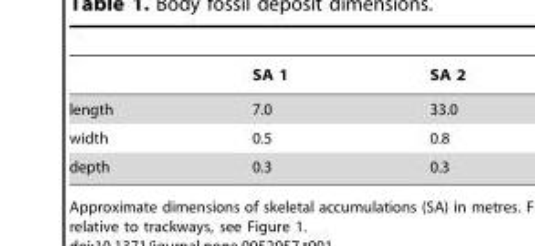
<table><thead><tr><td></td><td>SA 1</td><td>SA 2</td></tr></thead><tbody><tr><td>length</td><td>7.0</td><td>33.0</td></tr><tr><td>width</td><td>0.5</td><td>0.8</td></tr><tr><td>depth</td><td>0.3</td><td>0.3</td></tr></tbody></table>